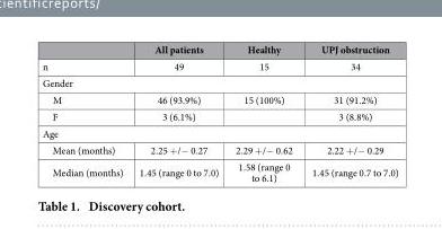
<table><thead><tr><td></td><td>All patients</td><td>Healthy</td><td>UPJ obstruction</td></tr></thead><tbody><tr><td>n</td><td>49</td><td>15</td><td>34</td></tr><tr><td colspan="4">Gender</td></tr><tr><td>M</td><td>46 (93.9%)</td><td>15 (100%)</td><td>31 (91.2%)</td></tr><tr><td>F</td><td>3 (6.1%)</td><td></td><td>3 (8.8%)</td></tr><tr><td colspan="4">Age</td></tr><tr><td>Mean (months)</td><td>2.25 + /− 0.27</td><td>2.29 + /− 0.62</td><td>2.22 + /− 0.29</td></tr><tr><td>Median (months)</td><td>1.45 (range 0 to 7.0)</td><td>1.58 (range 0 to 6.1)</td><td>1.45 (range 0.7 to 7.0)</td></tr></tbody></table>